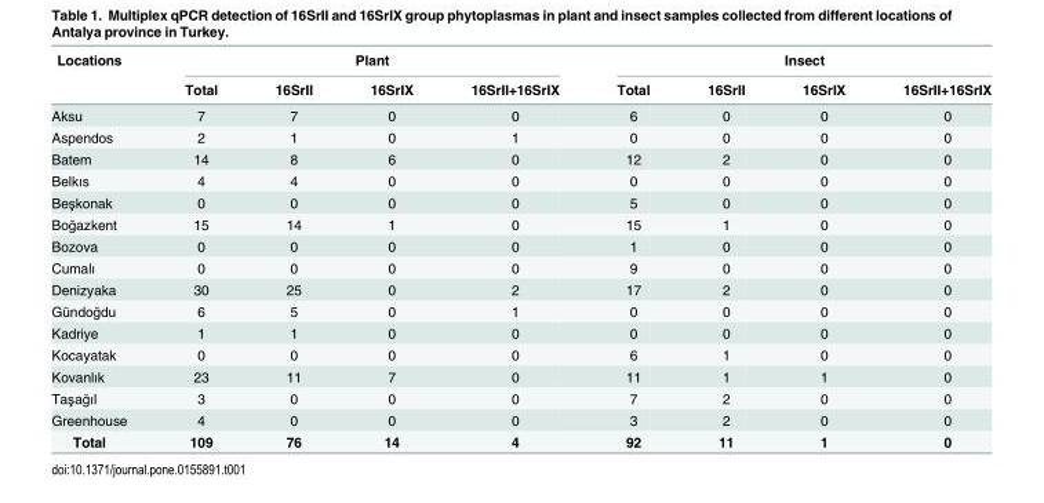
<table><thead><tr><td rowspan="2">Locations</td><td colspan="4">Plant</td><td colspan="4">Insect</td></tr><tr><td>Total</td><td>16SrII</td><td>16SrIX</td><td>16SrII+16SrIX</td><td>Total</td><td>16SrII</td><td>16SrIX</td><td>16SrII+16SrIX</td></tr></thead><tbody><tr><td>Aksu</td><td>7</td><td>7</td><td>0</td><td>0</td><td>6</td><td>0</td><td>0</td><td>0</td></tr><tr><td>Aspendos</td><td>2</td><td>1</td><td>0</td><td>1</td><td>0</td><td>0</td><td>0</td><td>0</td></tr><tr><td>Batem</td><td>14</td><td>8</td><td>6</td><td>0</td><td>12</td><td>2</td><td>0</td><td>0</td></tr><tr><td>Belkıs</td><td>4</td><td>4</td><td>0</td><td>0</td><td>0</td><td>0</td><td>0</td><td>0</td></tr><tr><td>Beşkonak</td><td>0</td><td>0</td><td>0</td><td>0</td><td>5</td><td>0</td><td>0</td><td>0</td></tr><tr><td>Boğazkent</td><td>15</td><td>14</td><td>1</td><td>0</td><td>15</td><td>1</td><td>0</td><td>0</td></tr><tr><td>Bozova</td><td>0</td><td>0</td><td>0</td><td>0</td><td>1</td><td>0</td><td>0</td><td>0</td></tr><tr><td>Cumalı</td><td>0</td><td>0</td><td>0</td><td>0</td><td>9</td><td>0</td><td>0</td><td>0</td></tr><tr><td>Denizyaka</td><td>30</td><td>25</td><td>0</td><td>2</td><td>17</td><td>2</td><td>0</td><td>0</td></tr><tr><td>Gündoğdu</td><td>6</td><td>5</td><td>0</td><td>1</td><td>0</td><td>0</td><td>0</td><td>0</td></tr><tr><td>Kadriye</td><td>1</td><td>1</td><td>0</td><td>0</td><td>0</td><td>0</td><td>0</td><td>0</td></tr><tr><td>Kocayatak</td><td>0</td><td>0</td><td>0</td><td>0</td><td>6</td><td>1</td><td>0</td><td>0</td></tr><tr><td>Kovanlık</td><td>23</td><td>11</td><td>7</td><td>0</td><td>11</td><td>1</td><td>1</td><td>0</td></tr><tr><td>Taşağıl</td><td>3</td><td>0</td><td>0</td><td>0</td><td>7</td><td>2</td><td>0</td><td>0</td></tr><tr><td>Greenhouse</td><td>4</td><td>0</td><td>0</td><td>0</td><td>3</td><td>2</td><td>0</td><td>0</td></tr><tr><td>Total</td><td>109</td><td>76</td><td>14</td><td>4</td><td>92</td><td>11</td><td>1</td><td>0</td></tr></tbody></table>